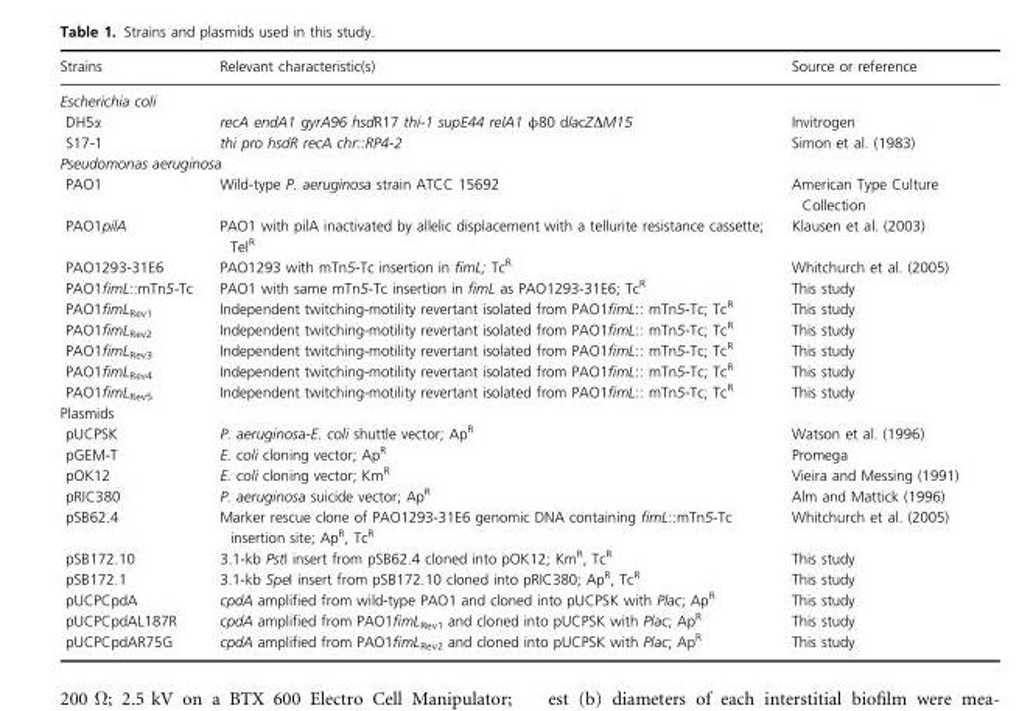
<table><thead><tr><td>Strains</td><td>Relevant characteristic(s)</td><td>Source or reference</td></tr></thead><tbody><tr><td colspan="3">Escherichia coli</td></tr><tr><td>DH5α</td><td>recA endA1 gyrA96 hsdR17 thi-1 supE44 relA1 φ80 dlacZΔM15</td><td>Invitrogen</td></tr><tr><td>S17-1</td><td>thi pro hsdR recA chr::RP4-2</td><td>Simon et al. (1983)</td></tr><tr><td colspan="3">Pseudomonas aeruginosa</td></tr><tr><td>PAO1</td><td>Wild-type P. aeruginosa strain ATCC 15692</td><td>American Type Culture Collection</td></tr><tr><td>PAO1pilA</td><td>PAO1 with pilA inactivated by allelic displacement with a tellurite resistance cassette; Tel<sup>R</sup></td><td>Klausen et al. (2003)</td></tr><tr><td>PAO1293-31E6</td><td>PAO1293 with mTn5-Tc insertion in fimL; Tc<sup>R</sup></td><td>Whitchurch et al. (2005)</td></tr><tr><td>PAO1fimL::mTn5-Tc</td><td>PAO1 with same mTn5-Tc insertion in fimL as PAO1293-31E6; Tc<sup>R</sup></td><td>This study</td></tr><tr><td>PAO1fimL<sub>Rev1</sub></td><td>Independent twitching-motility revertant isolated from PAO1fimL:: mTn5-Tc; Tc<sup>R</sup></td><td>This study</td></tr><tr><td>PAO1fimL<sub>Rev2</sub></td><td>Independent twitching-motility revertant isolated from PAO1fimL:: mTn5-Tc; Tc<sup>R</sup></td><td>This study</td></tr><tr><td>PAO1fimL<sub>Rev3</sub></td><td>Independent twitching-motility revertant isolated from PAO1fimL:: mTn5-Tc; Tc<sup>R</sup></td><td>This study</td></tr><tr><td>PAO1fimL<sub>Rev4</sub></td><td>Independent twitching-motility revertant isolated from PAO1fimL:: mTn5-Tc; Tc<sup>R</sup></td><td>This study</td></tr><tr><td>PAO1fimL<sub>Rev5</sub></td><td>Independent twitching-motility revertant isolated from PAO1fimL:: mTn5-Tc; Tc<sup>R</sup></td><td>This study</td></tr><tr><td colspan="3">Plasmids</td></tr><tr><td>pUCPSK</td><td>P. aeruginosa-E. coli shuttle vector; Ap<sup>R</sup></td><td>Watson et al. (1996)</td></tr><tr><td>pGEM-T</td><td>E. coli cloning vector; Ap<sup>R</sup></td><td>Promega</td></tr><tr><td>pOK12</td><td>E. coli cloning vector; Km<sup>R</sup></td><td>Vieira and Messing (1991)</td></tr><tr><td>pRIC380</td><td>P. aeruginosa suicide vector; Ap<sup>R</sup></td><td>Alm and Mattick (1996)</td></tr><tr><td>pSB62.4</td><td>Marker rescue clone of PAO1293-31E6 genomic DNA containing fimL::mTn5-Tc insertion site; Ap<sup>R</sup>, Tc<sup>R</sup></td><td>Whitchurch et al. (2005)</td></tr><tr><td>pSB172.10</td><td>3.1-kb PstI insert from pSB62.4 cloned into pOK12; Km<sup>R</sup>, Tc<sup>R</sup></td><td>This study</td></tr><tr><td>pSB172.1</td><td>3.1-kb SpeI insert from pSB172.10 cloned into pRIC380; Ap<sup>R</sup>, Tc<sup>R</sup></td><td>This study</td></tr><tr><td>pUCPCpdA</td><td>cpdA amplified from wild-type PAO1 and cloned into pUCPSK with Plac; Ap<sup>R</sup></td><td>This study</td></tr><tr><td>pUCPCpdAL187R</td><td>cpdA amplified from PAO1fimL<sub>Rev1</sub> and cloned into pUCPSK with Plac; Ap<sup>R</sup></td><td>This study</td></tr><tr><td>pUCPCpdAR75G</td><td>cpdA amplified from PAO1fimL<sub>Rev2</sub> and cloned into pUCPSK with Plac; Ap<sup>R</sup></td><td>This study</td></tr></tbody></table>